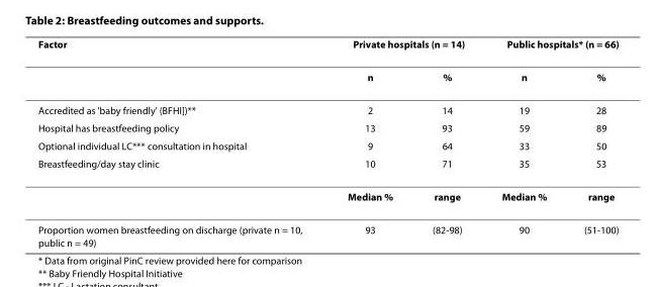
<table><thead><tr><td rowspan="2">Factor</td><td colspan="2">Private hospitals (n = 14)</td><td colspan="2">Public hospitals* (n = 66)</td></tr><tr><td>n</td><td>%</td><td>n</td><td>%</td></tr></thead><tbody><tr><td>Accredited as &#x27;baby friendly&#x27; (BFHI])**</td><td>2</td><td>14</td><td>19</td><td>28</td></tr><tr><td>Hospital has breastfeeding policy</td><td>13</td><td>93</td><td>59</td><td>89</td></tr><tr><td>Optional individual LC*** consultation in hospital</td><td>9</td><td>64</td><td>33</td><td>50</td></tr><tr><td rowspan="2">Breastfeeding/day stay clinic</td><td>10</td><td>71</td><td>35</td><td>53</td></tr><tr><td>Median %</td><td>range</td><td>Median %</td><td>range</td></tr><tr><td>Proportion women breastfeeding on discharge (private n = 10, public n = 49)</td><td>93</td><td>(82-98)</td><td>90</td><td>(51-100)</td></tr></tbody></table>